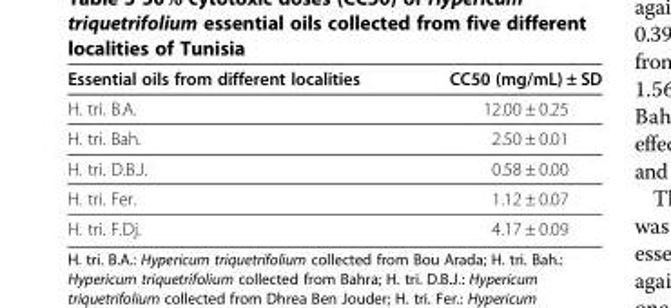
<table><thead><tr><td>Essential oils from different localities</td><td>CC50 (mg/mL) ± SD</td></tr></thead><tbody><tr><td>H. tri. B.A.</td><td>12.00 ± 0.25</td></tr><tr><td>H. tri. Bah.</td><td>2.50 ± 0.01</td></tr><tr><td>H. tri. D.B.J.</td><td>0.58 ± 0.00</td></tr><tr><td>H. tri. Fer.</td><td>1.12 ± 0.07</td></tr><tr><td>H. tri. F.Dj.</td><td>4.17 ± 0.09</td></tr></tbody></table>